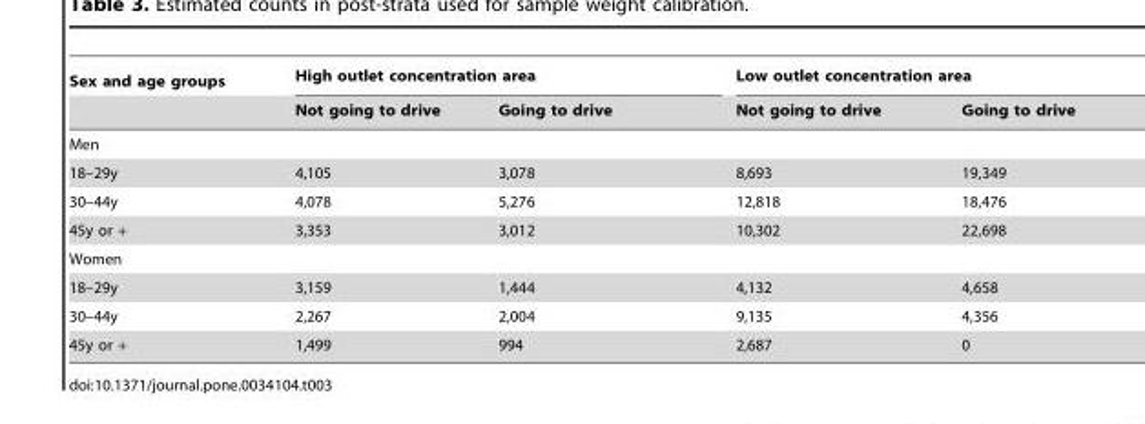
<table><thead><tr><td rowspan="2">Sex and age groups</td><td colspan="2">High outlet concentration area</td><td colspan="2">Low outlet concentration area</td></tr><tr><td>Not going to drive</td><td>Going to drive</td><td>Not going to drive</td><td>Going to drive</td></tr></thead><tbody><tr><td colspan="5">Men</td></tr><tr><td>18–29y</td><td>4,105</td><td>3,078</td><td>8,693</td><td>19,349</td></tr><tr><td>30–44y</td><td>4,078</td><td>5,276</td><td>12,818</td><td>18,476</td></tr><tr><td>45y or +</td><td>3,353</td><td>3,012</td><td>10,302</td><td>22,698</td></tr><tr><td colspan="5">Women</td></tr><tr><td>18–29y</td><td>3,159</td><td>1,444</td><td>4,132</td><td>4,658</td></tr><tr><td>30–44y</td><td>2,267</td><td>2,004</td><td>9,135</td><td>4,356</td></tr><tr><td>45y or +</td><td>1,499</td><td>994</td><td>2,687</td><td>0</td></tr></tbody></table>